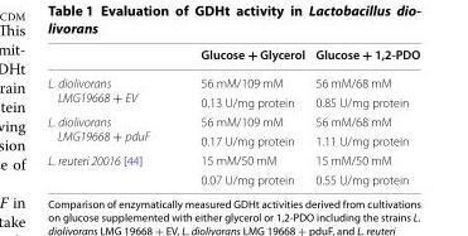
<table><thead><tr><td></td><td>Glucose + Glycerol</td><td>Glucose + 1,2‑PDO</td></tr></thead><tbody><tr><td rowspan="2">L. diolivorans LMG19668 + EV</td><td>56 mM/109 mM</td><td>56 mM/68 mM</td></tr><tr><td>0.13 U/mg protein</td><td>0.85 U/mg protein</td></tr><tr><td rowspan="2">L. diolivorans LMG19668 + pduF</td><td>56 mM/109 mM</td><td>56 mM/68 mM</td></tr><tr><td>0.17 U/mg protein</td><td>1.11 U/mg protein</td></tr><tr><td rowspan="2">L. reuteri 20016 [44]</td><td>15 mM/50 mM</td><td>15 mM/50 mM</td></tr><tr><td>0.07 U/mg protein</td><td>0.55 U/mg protein</td></tr></tbody></table>